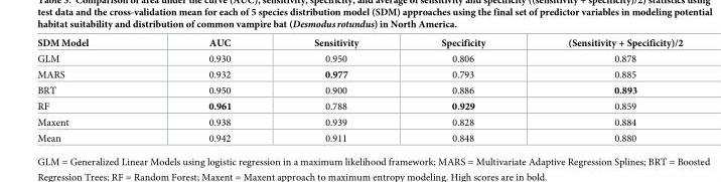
<table><thead><tr><td>SDM Model</td><td>AUC</td><td>Sensitivity</td><td>Specificity</td><td>(Sensitivity + Specificity)/2</td></tr></thead><tbody><tr><td>GLM</td><td>0.930</td><td>0.950</td><td>0.806</td><td>0.878</td></tr><tr><td>MARS</td><td>0.932</td><td>0.977</td><td>0.793</td><td>0.885</td></tr><tr><td>BRT</td><td>0.950</td><td>0.900</td><td>0.886</td><td>0.893</td></tr><tr><td>RF</td><td>0.961</td><td>0.788</td><td>0.929</td><td>0.859</td></tr><tr><td>Maxent</td><td>0.938</td><td>0.939</td><td>0.828</td><td>0.884</td></tr><tr><td>Mean</td><td>0.942</td><td>0.911</td><td>0.848</td><td>0.880</td></tr></tbody></table>